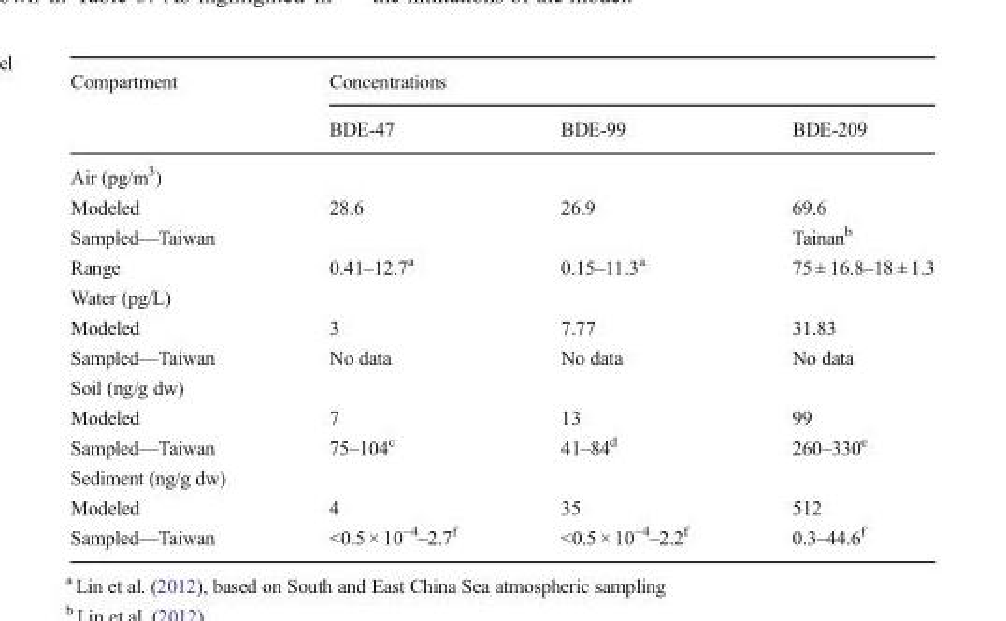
<table><thead><tr><td rowspan="2">Compartment</td><td colspan="3">Concentrations</td></tr><tr><td>BDE-47</td><td>BDE-99</td><td>BDE-209</td></tr></thead><tbody><tr><td colspan="4">Air (pg/m<sup>3</sup>)</td></tr><tr><td>Modeled</td><td>28.6</td><td>26.9</td><td>69.6</td></tr><tr><td>Sampled—Taiwan</td><td></td><td></td><td>Tainan<sup>b</sup></td></tr><tr><td>Range</td><td>0.41–12.7<sup>a</sup></td><td>0.15–11.3<sup>a</sup></td><td>75 ± 16.8–18 ± 1.3</td></tr><tr><td colspan="4">Water (pg/L)</td></tr><tr><td>Modeled</td><td>3</td><td>7.77</td><td>31.83</td></tr><tr><td>Sampled—Taiwan</td><td>No data</td><td>No data</td><td>No data</td></tr><tr><td colspan="4">Soil (ng/g dw)</td></tr><tr><td>Modeled</td><td>7</td><td>13</td><td>99</td></tr><tr><td>Sampled—Taiwan</td><td>75–104<sup>c</sup></td><td>41–84<sup>d</sup></td><td>260–330<sup>e</sup></td></tr><tr><td colspan="4">Sediment (ng/g dw)</td></tr><tr><td>Modeled</td><td>4</td><td>35</td><td>512</td></tr><tr><td>Sampled—Taiwan</td><td>&lt;0.5 × 10<sup>−4</sup>–2.7<sup>f</sup></td><td>&lt;0.5 × 10<sup>−4</sup>–2.2<sup>f</sup></td><td>0.3–44.6<sup>f</sup></td></tr></tbody></table>